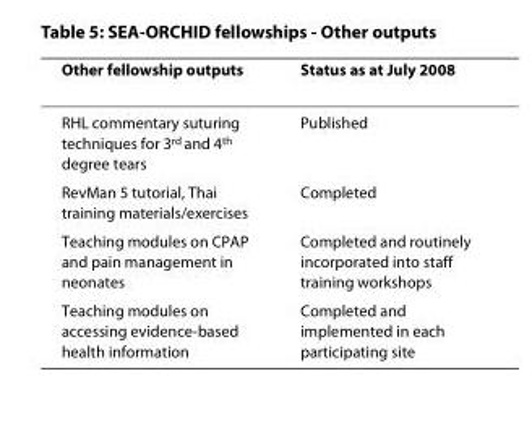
<table><thead><tr><td>Other fellowship outputs</td><td>Status as at July 2008</td></tr></thead><tbody><tr><td>RHL commentary suturing techniques for 3<sup>rd</sup> and 4<sup>th</sup> degree tears</td><td>Published</td></tr><tr><td>RevMan 5 tutorial, Thai training materials/exercises</td><td>Completed</td></tr><tr><td>Teaching modules on CPAP and pain management in neonates</td><td>Completed and routinely incorporated into staff training workshops</td></tr><tr><td>Teaching modules on accessing evidence-based health information</td><td>Completed and implemented in each participating site</td></tr></tbody></table>